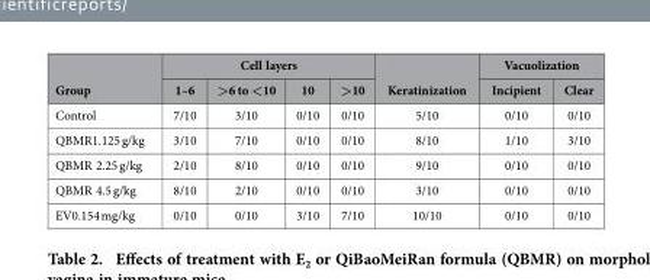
<table><thead><tr><td rowspan="2">Group</td><td colspan="4">Cell layers</td><td rowspan="2">Keratinization</td><td colspan="2">Vacuolization</td></tr><tr><td>1–6</td><td>&gt;6 to &lt;10</td><td>10</td><td>&gt;10</td><td>Incipient</td><td>Clear</td></tr></thead><tbody><tr><td>Control</td><td>7/10</td><td>3/10</td><td>0/10</td><td>0/10</td><td>5/10</td><td>0/10</td><td>0/10</td></tr><tr><td>QBMR1.125 g/kg</td><td>3/10</td><td>7/10</td><td>0/10</td><td>0/10</td><td>8/10</td><td>1/10</td><td>3/10</td></tr><tr><td>QBMR 2.25 g/kg</td><td>2/10</td><td>8/10</td><td>0/10</td><td>0/10</td><td>9/10</td><td>0/10</td><td>0/10</td></tr><tr><td>QBMR 4.5 g/kg</td><td>8/10</td><td>2/10</td><td>0/10</td><td>0/10</td><td>3/10</td><td>0/10</td><td>0/10</td></tr><tr><td>EV0.154 mg/kg</td><td>0/10</td><td>0/10</td><td>3/10</td><td>7/10</td><td>10/10</td><td>0/10</td><td>0/10</td></tr></tbody></table>